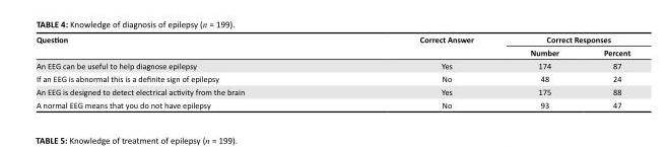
<table><thead><tr><td rowspan="2">Question</td><td rowspan="2">Correct Answer</td><td colspan="2">Correct Responses</td></tr><tr><td>Number</td><td>Percent</td></tr></thead><tbody><tr><td>An EEG can be useful to help diagnose epilepsy</td><td>Yes</td><td>174</td><td>87</td></tr><tr><td>If an EEG is abnormal this is a definite sign of epilepsy</td><td>No</td><td>48</td><td>24</td></tr><tr><td>An EEG is designed to detect electrical activity from the brain</td><td>Yes</td><td>175</td><td>88</td></tr><tr><td>A normal EEG means that you do not have epilepsy</td><td>No</td><td>93</td><td>47</td></tr></tbody></table>